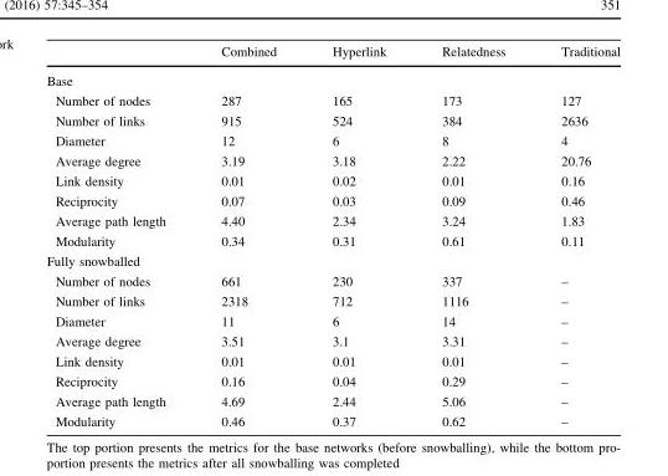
<table><thead><tr><td></td><td>Combined</td><td>Hyperlink</td><td>Relatedness</td><td>Traditional</td></tr></thead><tbody><tr><td colspan="5">Base</td></tr><tr><td>Number of nodes</td><td>287</td><td>165</td><td>173</td><td>127</td></tr><tr><td>Number of links</td><td>915</td><td>524</td><td>384</td><td>2636</td></tr><tr><td>Diameter</td><td>12</td><td>6</td><td>8</td><td>4</td></tr><tr><td>Average degree</td><td>3.19</td><td>3.18</td><td>2.22</td><td>20.76</td></tr><tr><td>Link density</td><td>0.01</td><td>0.02</td><td>0.01</td><td>0.16</td></tr><tr><td>Reciprocity</td><td>0.07</td><td>0.03</td><td>0.09</td><td>0.46</td></tr><tr><td>Average path length</td><td>4.40</td><td>2.34</td><td>3.24</td><td>1.83</td></tr><tr><td>Modularity</td><td>0.34</td><td>0.31</td><td>0.61</td><td>0.11</td></tr><tr><td colspan="5">Fully snowballed</td></tr><tr><td>Number of nodes</td><td>661</td><td>230</td><td>337</td><td>–</td></tr><tr><td>Number of links</td><td>2318</td><td>712</td><td>1116</td><td>–</td></tr><tr><td>Diameter</td><td>11</td><td>6</td><td>14</td><td>–</td></tr><tr><td>Average degree</td><td>3.51</td><td>3.1</td><td>3.31</td><td>–</td></tr><tr><td>Link density</td><td>0.01</td><td>0.01</td><td>0.01</td><td>–</td></tr><tr><td>Reciprocity</td><td>0.16</td><td>0.04</td><td>0.29</td><td>–</td></tr><tr><td>Average path length</td><td>4.69</td><td>2.44</td><td>5.06</td><td>–</td></tr><tr><td>Modularity</td><td>0.46</td><td>0.37</td><td>0.62</td><td>–</td></tr></tbody></table>